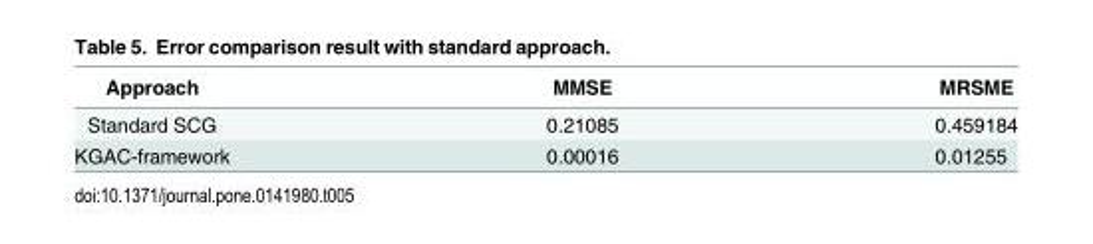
<table><thead><tr><td>Approach</td><td>MMSE</td><td>MRSME</td></tr></thead><tbody><tr><td>Standard SCG</td><td>0.21085</td><td>0.459184</td></tr><tr><td>KGAC-framework</td><td>0.00016</td><td>0.01255</td></tr></tbody></table>